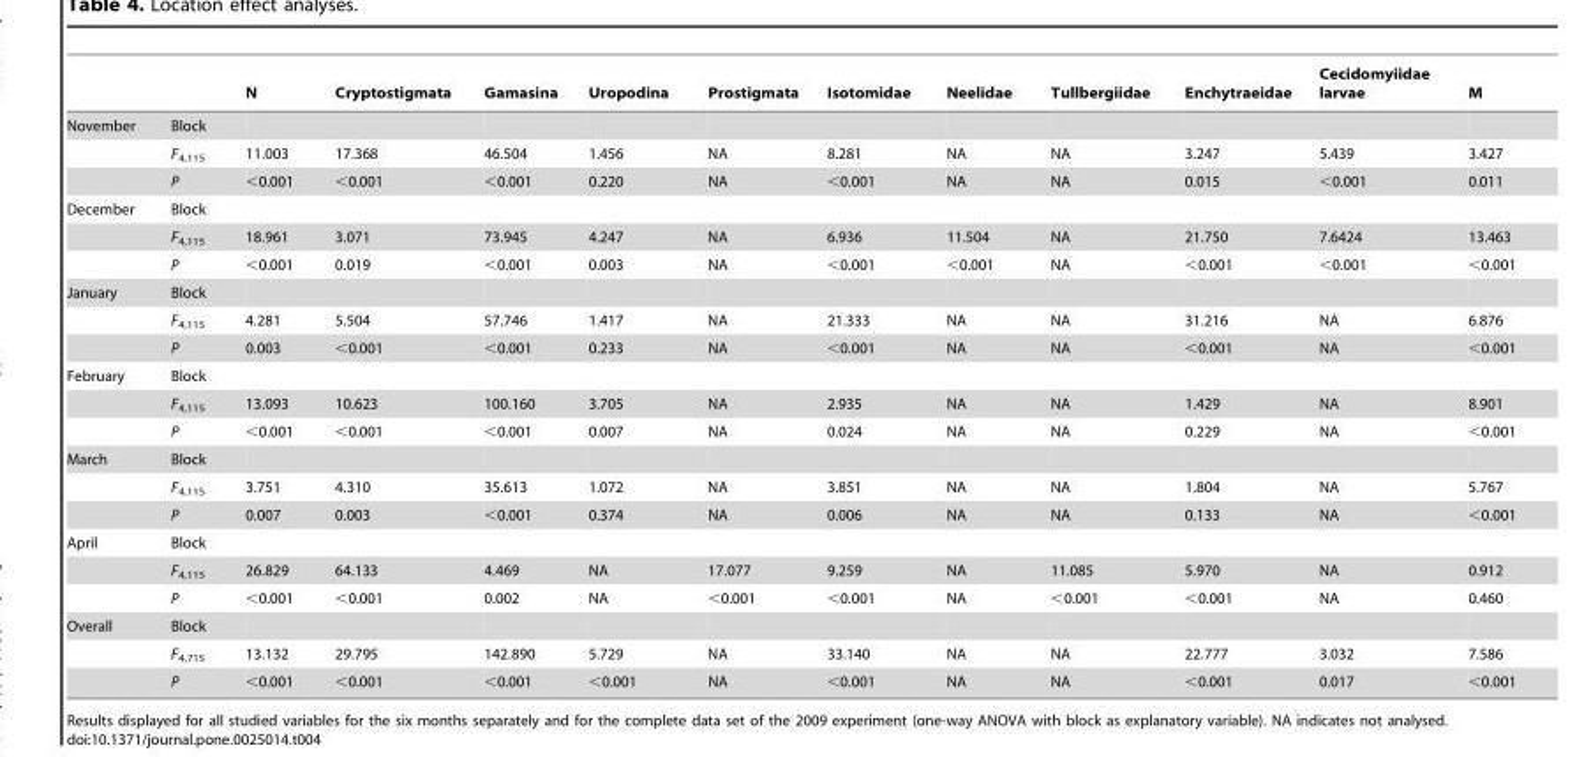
<table><thead><tr><td></td><td></td><td>N</td><td>Cryptostigmata</td><td>Gamasina</td><td>Uropodina</td><td>Prostigmata</td><td>Isotomidae</td><td>Neelidae</td><td>Tullbergiidae</td><td>Enchytraeidae</td><td>Cecidomyiidae larvae</td><td>M</td></tr></thead><tbody><tr><td rowspan="3">November</td><td>Block</td><td></td><td></td><td></td><td></td><td></td><td></td><td></td><td></td><td></td><td></td><td></td></tr><tr><td>F<sub>4,115</sub></td><td>11.003</td><td>17.368</td><td>46.504</td><td>1.456</td><td>NA</td><td>8.281</td><td>NA</td><td>NA</td><td>3.247</td><td>5.439</td><td>3.427</td></tr><tr><td>P</td><td>&lt;0.001</td><td>&lt;0.001</td><td>&lt;0.001</td><td>0.220</td><td>NA</td><td>&lt;0.001</td><td>NA</td><td>NA</td><td>0.015</td><td>&lt;0.001</td><td>0.011</td></tr><tr><td rowspan="3">December</td><td>Block</td><td></td><td></td><td></td><td></td><td></td><td></td><td></td><td></td><td></td><td></td><td></td></tr><tr><td>F<sub>4,115</sub></td><td>18.961</td><td>3.071</td><td>73.945</td><td>4.247</td><td>NA</td><td>6.936</td><td>11.504</td><td>NA</td><td>21.750</td><td>7.6424</td><td>13.463</td></tr><tr><td>P</td><td>&lt;0.001</td><td>0.019</td><td>&lt;0.001</td><td>0.003</td><td>NA</td><td>&lt;0.001</td><td>&lt;0.001</td><td>NA</td><td>&lt;0.001</td><td>&lt;0.001</td><td>&lt;0.001</td></tr><tr><td rowspan="3">January</td><td>Block</td><td></td><td></td><td></td><td></td><td></td><td></td><td></td><td></td><td></td><td></td><td></td></tr><tr><td>F<sub>4,115</sub></td><td>4.281</td><td>5.504</td><td>57.746</td><td>1.417</td><td>NA</td><td>21.333</td><td>NA</td><td>NA</td><td>31.216</td><td>NA</td><td>6.876</td></tr><tr><td>P</td><td>0.003</td><td>&lt;0.001</td><td>&lt;0.001</td><td>0.233</td><td>NA</td><td>&lt;0.001</td><td>NA</td><td>NA</td><td>&lt;0.001</td><td>NA</td><td>&lt;0.001</td></tr><tr><td rowspan="3">February</td><td>Block</td><td></td><td></td><td></td><td></td><td></td><td></td><td></td><td></td><td></td><td></td><td></td></tr><tr><td>F<sub>4,115</sub></td><td>13.093</td><td>10.623</td><td>100.160</td><td>3.705</td><td>NA</td><td>2.935</td><td>NA</td><td>NA</td><td>1.429</td><td>NA</td><td>8.901</td></tr><tr><td>P</td><td>&lt;0.001</td><td>&lt;0.001</td><td>&lt;0.001</td><td>0.007</td><td>NA</td><td>0.024</td><td>NA</td><td>NA</td><td>0.229</td><td>NA</td><td>&lt;0.001</td></tr><tr><td rowspan="3">March</td><td>Block</td><td></td><td></td><td></td><td></td><td></td><td></td><td></td><td></td><td></td><td></td><td></td></tr><tr><td>F<sub>4,115</sub></td><td>3.751</td><td>4.310</td><td>35.613</td><td>1.072</td><td>NA</td><td>3.851</td><td>NA</td><td>NA</td><td>1.804</td><td>NA</td><td>5.767</td></tr><tr><td>P</td><td>0.007</td><td>0.003</td><td>&lt;0.001</td><td>0.374</td><td>NA</td><td>0.006</td><td>NA</td><td>NA</td><td>0.133</td><td>NA</td><td>&lt;0.001</td></tr><tr><td rowspan="3">April</td><td>Block</td><td></td><td></td><td></td><td></td><td></td><td></td><td></td><td></td><td></td><td></td><td></td></tr><tr><td>F<sub>4,115</sub></td><td>26.829</td><td>64.133</td><td>4.469</td><td>NA</td><td>17.077</td><td>9.259</td><td>NA</td><td>11.085</td><td>5.970</td><td>NA</td><td>0.912</td></tr><tr><td>P</td><td>&lt;0.001</td><td>&lt;0.001</td><td>0.002</td><td>NA</td><td>&lt;0.001</td><td>&lt;0.001</td><td>NA</td><td>&lt;0.001</td><td>&lt;0.001</td><td>NA</td><td>0.460</td></tr><tr><td rowspan="3">Overall</td><td>Block</td><td></td><td></td><td></td><td></td><td></td><td></td><td></td><td></td><td></td><td></td><td></td></tr><tr><td>F<sub>4,715</sub></td><td>13.132</td><td>29.795</td><td>142.890</td><td>5.729</td><td>NA</td><td>33.140</td><td>NA</td><td>NA</td><td>22.777</td><td>3.032</td><td>7.586</td></tr><tr><td>P</td><td>&lt;0.001</td><td>&lt;0.001</td><td>&lt;0.001</td><td>&lt;0.001</td><td>NA</td><td>&lt;0.001</td><td>NA</td><td>NA</td><td>&lt;0.001</td><td>0.017</td><td>&lt;0.001</td></tr></tbody></table>